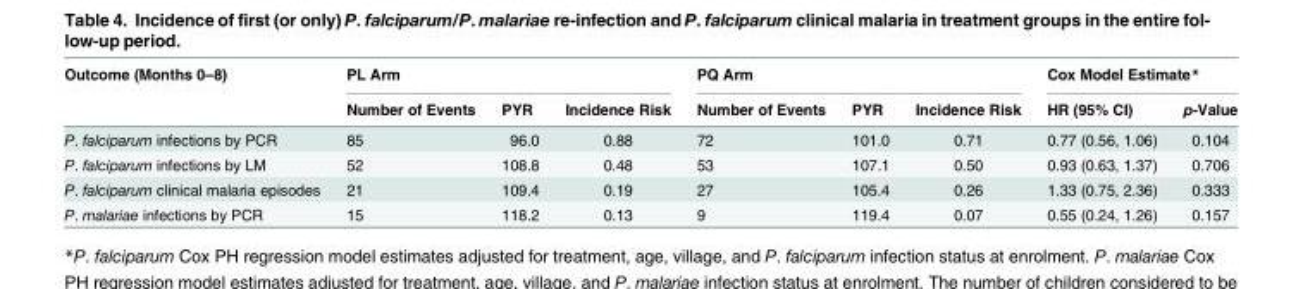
<table><thead><tr><td rowspan="2">Outcome (Months 0–8)</td><td colspan="3">PL Arm</td><td colspan="3">PQ Arm</td><td colspan="2">Cox Model Estimate*</td></tr><tr><td>Number of Events</td><td>PYR</td><td>Incidence Risk</td><td>Number of Events</td><td>PYR</td><td>Incidence Risk</td><td>HR (95% CI)</td><td>p-Value</td></tr></thead><tbody><tr><td>P. falciparum infections by PCR</td><td>85</td><td>96.0</td><td>0.88</td><td>72</td><td>101.0</td><td>0.71</td><td>0.77 (0.56, 1.06)</td><td>0.104</td></tr><tr><td>P. falciparum infections by LM</td><td>52</td><td>108.8</td><td>0.48</td><td>53</td><td>107.1</td><td>0.50</td><td>0.93 (0.63, 1.37)</td><td>0.706</td></tr><tr><td>P. falciparum clinical malaria episodes</td><td>21</td><td>109.4</td><td>0.19</td><td>27</td><td>105.4</td><td>0.26</td><td>1.33 (0.75, 2.36)</td><td>0.333</td></tr><tr><td>P. malariae infections by PCR</td><td>15</td><td>118.2</td><td>0.13</td><td>9</td><td>119.4</td><td>0.07</td><td>0.55 (0.24, 1.26)</td><td>0.157</td></tr></tbody></table>